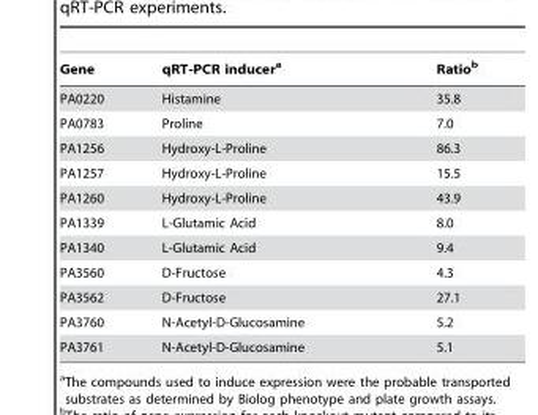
<table><thead><tr><td>Gene</td><td>qRT-PCR inducer<sup>a</sup></td><td>Ratio<sup>b</sup></td></tr></thead><tbody><tr><td>PA0220</td><td>Histamine</td><td>35.8</td></tr><tr><td>PA0783</td><td>Proline</td><td>7.0</td></tr><tr><td>PA1256</td><td>Hydroxy-L-Proline</td><td>86.3</td></tr><tr><td>PA1257</td><td>Hydroxy-L-Proline</td><td>15.5</td></tr><tr><td>PA1260</td><td>Hydroxy-L-Proline</td><td>43.9</td></tr><tr><td>PA1339</td><td>L-Glutamic Acid</td><td>8.0</td></tr><tr><td>PA1340</td><td>L-Glutamic Acid</td><td>9.4</td></tr><tr><td>PA3560</td><td>D-Fructose</td><td>4.3</td></tr><tr><td>PA3562</td><td>D-Fructose</td><td>27.1</td></tr><tr><td>PA3760</td><td>N-Acetyl-D-Glucosamine</td><td>5.2</td></tr><tr><td>PA3761</td><td>N-Acetyl-D-Glucosamine</td><td>5.1</td></tr></tbody></table>